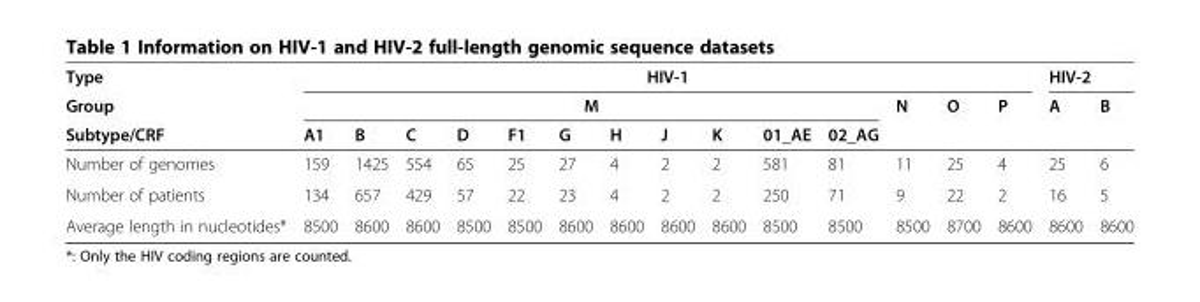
<table><thead><tr><td rowspan="3">Type Group Subtype/CRF</td><td colspan="14">HIV-1</td><td colspan="2">HIV-2</td></tr><tr><td colspan="11">M</td><td rowspan="2">N</td><td rowspan="2">O</td><td rowspan="2">P</td><td rowspan="2">A</td><td rowspan="2">B</td></tr><tr><td>A1</td><td>B</td><td>C</td><td>D</td><td>F1</td><td>G</td><td>H</td><td>J</td><td>K</td><td>01_AE</td><td>02_AG</td></tr></thead><tbody><tr><td>Number of genomes</td><td>159</td><td>1425</td><td>554</td><td>65</td><td>25</td><td>27</td><td>4</td><td>2</td><td>2</td><td>581</td><td>81</td><td>11</td><td>25</td><td>4</td><td>25</td><td>6</td></tr><tr><td>Number of patients</td><td>134</td><td>657</td><td>429</td><td>57</td><td>22</td><td>23</td><td>4</td><td>2</td><td>2</td><td>250</td><td>71</td><td>9</td><td>22</td><td>2</td><td>16</td><td>5</td></tr><tr><td>Average length in nucleotides*</td><td>8500</td><td>8600</td><td>8600</td><td>8500</td><td>8500</td><td>8600</td><td>8600</td><td>8600</td><td>8600</td><td>8500</td><td>8500</td><td>8500</td><td>8700</td><td>8600</td><td>8600</td><td>8600</td></tr></tbody></table>